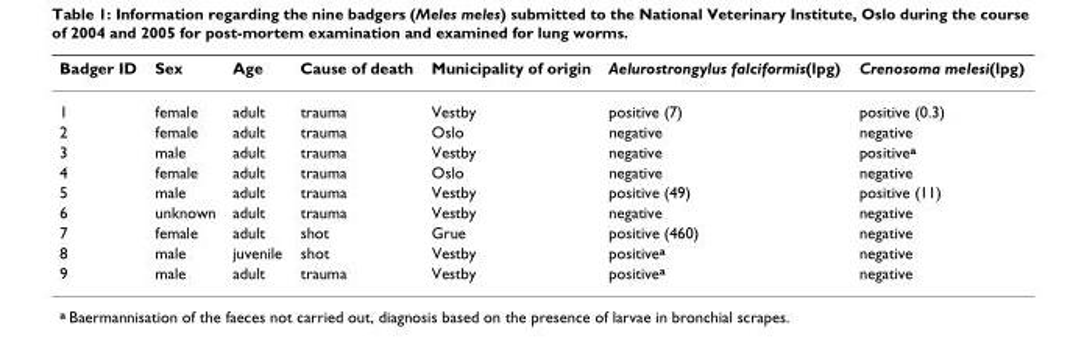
<table><thead><tr><td>Badger ID</td><td>Sex</td><td>Age</td><td>Cause of death</td><td>Municipality of origin</td><td>Aelurostrongylus falciformis(lpg)</td><td>Crenosoma melesi(lpg)</td></tr></thead><tbody><tr><td>1</td><td>female</td><td>adult</td><td>trauma</td><td>Vestby</td><td>positive (7)</td><td>positive (0.3)</td></tr><tr><td>2</td><td>female</td><td>adult</td><td>trauma</td><td>Oslo</td><td>negative</td><td>negative</td></tr><tr><td>3</td><td>male</td><td>adult</td><td>trauma</td><td>Vestby</td><td>negative</td><td>positive<sup>a</sup></td></tr><tr><td>4</td><td>female</td><td>adult</td><td>trauma</td><td>Oslo</td><td>negative</td><td>negative</td></tr><tr><td>5</td><td>male</td><td>adult</td><td>trauma</td><td>Vestby</td><td>positive (49)</td><td>positive (11)</td></tr><tr><td>6</td><td>unknown</td><td>adult</td><td>trauma</td><td>Vestby</td><td>negative</td><td>negative</td></tr><tr><td>7</td><td>female</td><td>adult</td><td>shot</td><td>Grue</td><td>positive (460)</td><td>negative</td></tr><tr><td>8</td><td>male</td><td>juvenile</td><td>shot</td><td>Vestby</td><td>positive<sup>a</sup></td><td>negative</td></tr><tr><td>9</td><td>male</td><td>adult</td><td>trauma</td><td>Vestby</td><td>positive<sup>a</sup></td><td>negative</td></tr></tbody></table>